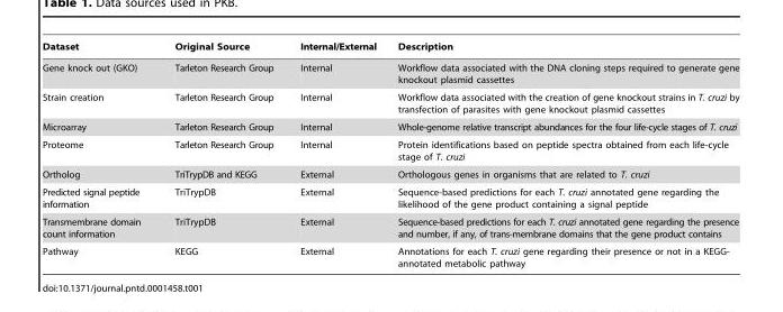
<table><thead><tr><td>Dataset</td><td>Original Source</td><td>Internal/External</td><td>Description</td></tr></thead><tbody><tr><td>Gene knock out (GKO)</td><td>Tarleton Research Group</td><td>Internal</td><td>Workflow data associated with the DNA cloning steps required to generate gene knockout plasmid cassettes</td></tr><tr><td>Strain creation</td><td>Tarleton Research Group</td><td>Internal</td><td>Workflow data associated with the creation of gene knockout strains in T. cruzi by transfection of parasites with gene knockout plasmid cassettes</td></tr><tr><td>Microarray</td><td>Tarleton Research Group</td><td>Internal</td><td>Whole-genome relative transcript abundances for the four life-cycle stages of T. cruzi</td></tr><tr><td>Proteome</td><td>Tarleton Research Group</td><td>Internal</td><td>Protein identifications based on peptide spectra obtained from each life-cycle stage of T. cruzi</td></tr><tr><td>Ortholog</td><td>TriTrypDB and KEGG</td><td>External</td><td>Orthologous genes in organisms that are related to T. cruzi</td></tr><tr><td>Predicted signal peptide information</td><td>TriTrypDB</td><td>External</td><td>Sequence-based predictions for each T. cruzi annotated gene regarding the likelihood of the gene product containing a signal peptide</td></tr><tr><td>Transmembrane domain count information</td><td>TriTrypDB</td><td>External</td><td>Sequence-based predictions for each T. cruzi annotated gene regarding the presence and number, if any, of trans-membrane domains that the gene product contains</td></tr><tr><td>Pathway</td><td>KEGG</td><td>External</td><td>Annotations for each T. cruzi gene regarding their presence or not in a KEGG- annotated metabolic pathway</td></tr></tbody></table>